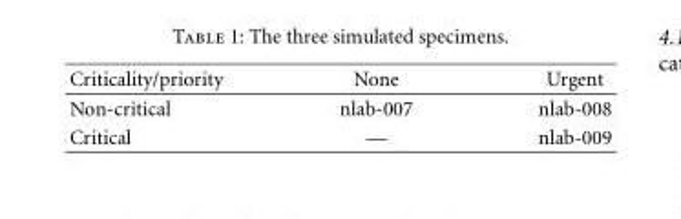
<table><thead><tr><td>Criticality/priority</td><td>None</td><td>Urgent</td></tr></thead><tbody><tr><td>Non-critical</td><td>nlab-007</td><td>nlab-008</td></tr><tr><td>Critical</td><td>—</td><td>nlab-009</td></tr></tbody></table>